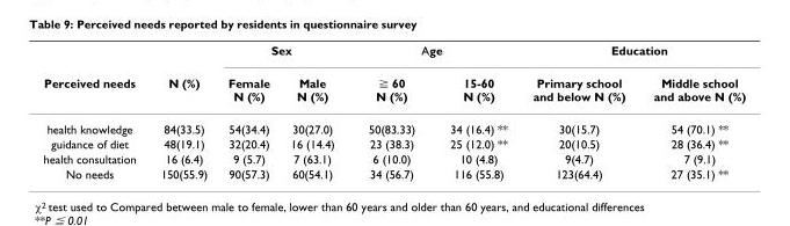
<table><thead><tr><td rowspan="2">Perceived needs</td><td rowspan="2">N (%)</td><td colspan="2">Sex</td><td colspan="2">Age</td><td colspan="2">Education</td></tr><tr><td>Female N (%)</td><td>Male N (%)</td><td>≧ 60 N (%)</td><td>15-60 N (%)</td><td>Primary school and below N (%)</td><td>Middle school and above N (%)</td></tr></thead><tbody><tr><td>health knowledge</td><td>84(33.5)</td><td>54(34.4)</td><td>30(27.0)</td><td>50(83.33)</td><td>34 (16.4) **</td><td>30(15.7)</td><td>54 (70.1) **</td></tr><tr><td>guidance of diet</td><td>48(19.1)</td><td>32(20.4)</td><td>16 (14.4)</td><td>23 (38.3)</td><td>25 (12.0) **</td><td>20(10.5)</td><td>28 (36.4) **</td></tr><tr><td>health consultation</td><td>16 (6.4)</td><td>9 (5.7)</td><td>7 (63.1)</td><td>6 (10.0)</td><td>10 (4.8)</td><td>9(4.7)</td><td>7 (9.1)</td></tr><tr><td>No needs</td><td>150(55.9)</td><td>90(57.3)</td><td>60(54.1)</td><td>34 (56.7)</td><td>116 (55.8)</td><td>123(64.4)</td><td>27 (35.1) **</td></tr></tbody></table>